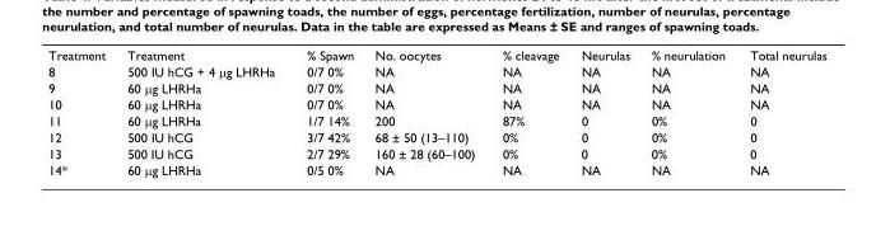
<table><tbody><tr><td>Treatment</td><td>Treatment</td><td>% Spawn</td><td>No. oocytes</td><td>% cleavage</td><td>Neurulas</td><td>% neurulation</td><td>Total neurulas</td></tr><tr><td>8</td><td>500 IU hCG + 4 µg LHRHa</td><td>0/7 0%</td><td>NA</td><td>NA</td><td>NA</td><td>NA</td><td>NA</td></tr><tr><td>9</td><td>60 µg LHRHa</td><td>0/7 0%</td><td>NA</td><td>NA</td><td>NA</td><td>NA</td><td>NA</td></tr><tr><td>10</td><td>60 µg LHRHa</td><td>0/7 0%</td><td>NA</td><td>NA</td><td>NA</td><td>NA</td><td>NA</td></tr><tr><td>11</td><td>60 µg LHRHa</td><td>1/7 14%</td><td>200</td><td>87%</td><td>0</td><td>0%</td><td>0</td></tr><tr><td>12</td><td>500 IU hCG</td><td>3/7 42%</td><td>68 ± 50 (13–110)</td><td>0%</td><td>0</td><td>0%</td><td>0</td></tr><tr><td>13</td><td>500 IU hCG</td><td>2/7 29%</td><td>160 ± 28 (60–100)</td><td>0%</td><td>0</td><td>0%</td><td>0</td></tr><tr><td>14*</td><td>60 µg LHRHa</td><td>0/5 0%</td><td>NA</td><td>NA</td><td>NA</td><td>NA</td><td>NA</td></tr></tbody></table>